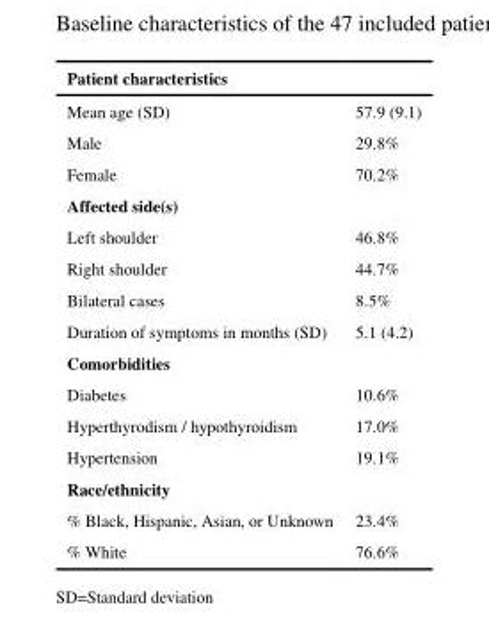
<table><thead><tr><td>Patient characteristics</td><td></td></tr></thead><tbody><tr><td>Mean age (SD)</td><td>57.9 (9.1)</td></tr><tr><td>Male</td><td>29.8%</td></tr><tr><td>Female</td><td>70.2%</td></tr><tr><td colspan="2">Affected side(s)</td></tr><tr><td>Left shoulder</td><td>46.8%</td></tr><tr><td>Right shoulder</td><td>44.7%</td></tr><tr><td>Bilateral cases</td><td>8.5%</td></tr><tr><td>Duration of symptoms in months (SD)</td><td>5.1 (4.2)</td></tr><tr><td colspan="2">Comorbidities</td></tr><tr><td>Diabetes</td><td>10.6%</td></tr><tr><td>Hyperthyrodism / hypothyroidism</td><td>17.0%</td></tr><tr><td>Hypertension</td><td>19.1%</td></tr><tr><td colspan="2">Race/ethnicity</td></tr><tr><td>% Black, Hispanic, Asian, or Unknown</td><td>23.4%</td></tr><tr><td>% White</td><td>76.6%</td></tr></tbody></table>